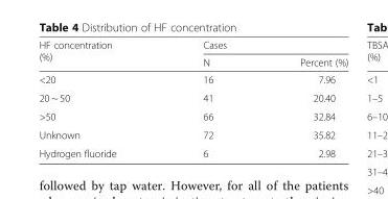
<table><thead><tr><td rowspan="2">HF concentration (%)</td><td colspan="2">Cases</td></tr><tr><td>N</td><td>Percent (%)</td></tr></thead><tbody><tr><td>&lt;20</td><td>16</td><td>7.96</td></tr><tr><td>20 ~ 50</td><td>41</td><td>20.40</td></tr><tr><td>&gt;50</td><td>66</td><td>32.84</td></tr><tr><td>Unknown</td><td>72</td><td>35.82</td></tr><tr><td>Hydrogen fluoride</td><td>6</td><td>2.98</td></tr></tbody></table>